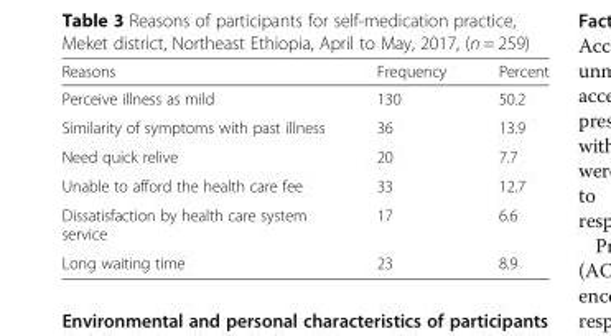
<table><thead><tr><td>Reasons</td><td>Frequency</td><td>Percent</td></tr></thead><tbody><tr><td>Perceive illness as mild</td><td>130</td><td>50.2</td></tr><tr><td>Similarity of symptoms with past illness</td><td>36</td><td>13.9</td></tr><tr><td>Need quick relive</td><td>20</td><td>7.7</td></tr><tr><td>Unable to afford the health care fee</td><td>33</td><td>12.7</td></tr><tr><td>Dissatisfaction by health care system service</td><td>17</td><td>6.6</td></tr><tr><td>Long waiting time</td><td>23</td><td>8.9</td></tr></tbody></table>